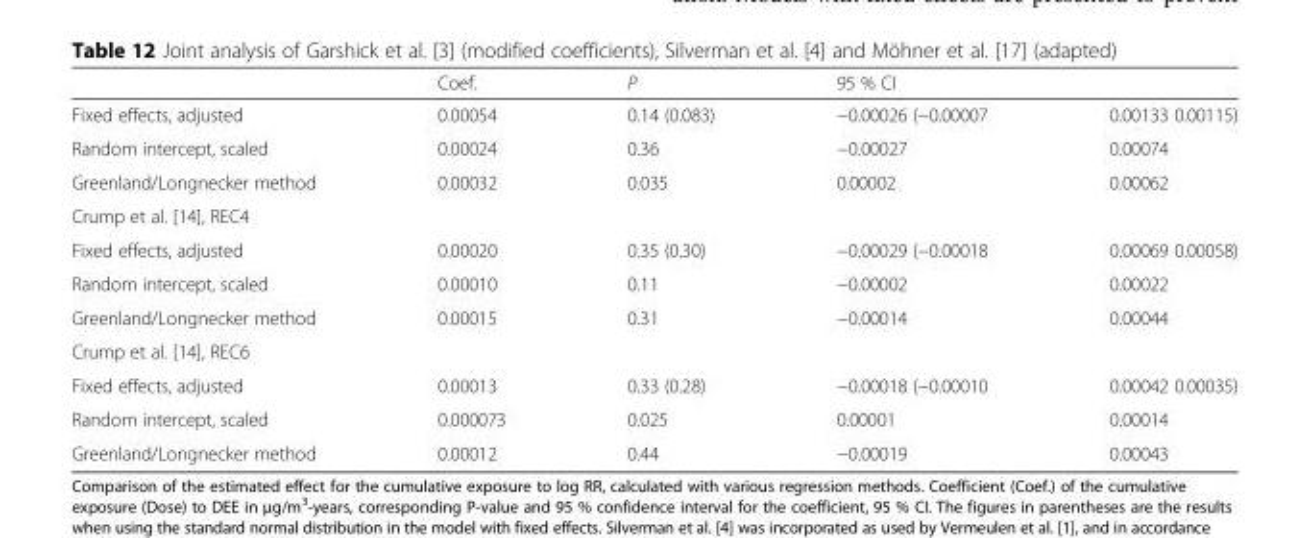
<table><thead><tr><td></td><td>Coef.</td><td>P</td><td>95 % CI</td><td></td></tr></thead><tbody><tr><td>Fixed effects, adjusted</td><td>0.00054</td><td>0.14 (0.083)</td><td>−0.00026 (−0.00007</td><td>0.00133 0.00115)</td></tr><tr><td>Random intercept, scaled</td><td>0.00024</td><td>0.36</td><td>−0.00027</td><td>0.00074</td></tr><tr><td>Greenland/Longnecker method</td><td>0.00032</td><td>0.035</td><td>0.00002</td><td>0.00062</td></tr><tr><td colspan="5">Crump et al. [14], REC4</td></tr><tr><td>Fixed effects, adjusted</td><td>0.00020</td><td>0.35 (0.30)</td><td>−0.00029 (−0.00018</td><td>0.00069 0.00058)</td></tr><tr><td>Random intercept, scaled</td><td>0.00010</td><td>0.11</td><td>−0.00002</td><td>0.00022</td></tr><tr><td>Greenland/Longnecker method</td><td>0.00015</td><td>0.31</td><td>−0.00014</td><td>0.00044</td></tr><tr><td colspan="5">Crump et al. [14], REC6</td></tr><tr><td>Fixed effects, adjusted</td><td>0.00013</td><td>0.33 (0.28)</td><td>−0.00018 (−0.00010</td><td>0.00042 0.00035)</td></tr><tr><td>Random intercept, scaled</td><td>0.000073</td><td>0.025</td><td>0.00001</td><td>0.00014</td></tr><tr><td>Greenland/Longnecker method</td><td>0.00012</td><td>0.44</td><td>−0.00019</td><td>0.00043</td></tr></tbody></table>